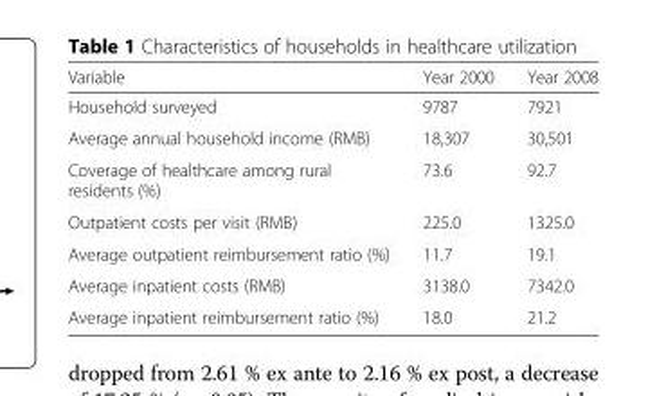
<table><thead><tr><td>Variable</td><td>Year 2000</td><td>Year 2008</td></tr></thead><tbody><tr><td>Household surveyed</td><td>9787</td><td>7921</td></tr><tr><td>Average annual household income (RMB)</td><td>18,307</td><td>30,501</td></tr><tr><td>Coverage of healthcare among rural residents (%)</td><td>73.6</td><td>92.7</td></tr><tr><td>Outpatient costs per visit (RMB)</td><td>225.0</td><td>1325.0</td></tr><tr><td>Average outpatient reimbursement ratio (%)</td><td>11.7</td><td>19.1</td></tr><tr><td>Average inpatient costs (RMB)</td><td>3138.0</td><td>7342.0</td></tr><tr><td>Average inpatient reimbursement ratio (%)</td><td>18.0</td><td>21.2</td></tr></tbody></table>